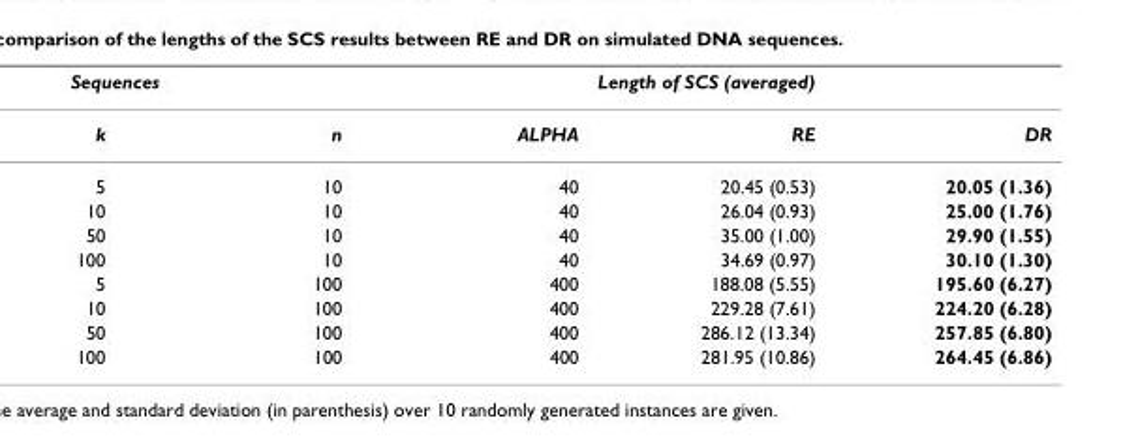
<table><thead><tr><td colspan="2">Sequences</td><td colspan="3">Length of SCS (averaged)</td></tr><tr><td>k</td><td>n</td><td>ALPHA</td><td>RE</td><td>DR</td></tr></thead><tbody><tr><td>5</td><td>10</td><td>40</td><td>20.45 (0.53)</td><td>20.05 (1.36)</td></tr><tr><td>10</td><td>10</td><td>40</td><td>26.04 (0.93)</td><td>25.00 (1.76)</td></tr><tr><td>50</td><td>10</td><td>40</td><td>35.00 (1.00)</td><td>29.90 (1.55)</td></tr><tr><td>100</td><td>10</td><td>40</td><td>34.69 (0.97)</td><td>30.10 (1.30)</td></tr><tr><td>5</td><td>100</td><td>400</td><td>188.08 (5.55)</td><td>195.60 (6.27)</td></tr><tr><td>10</td><td>100</td><td>400</td><td>229.28 (7.61)</td><td>224.20 (6.28)</td></tr><tr><td>50</td><td>100</td><td>400</td><td>286.12 (13.34)</td><td>257.85 (6.80)</td></tr><tr><td>100</td><td>100</td><td>400</td><td>281.95 (10.86)</td><td>264.45 (6.86)</td></tr></tbody></table>